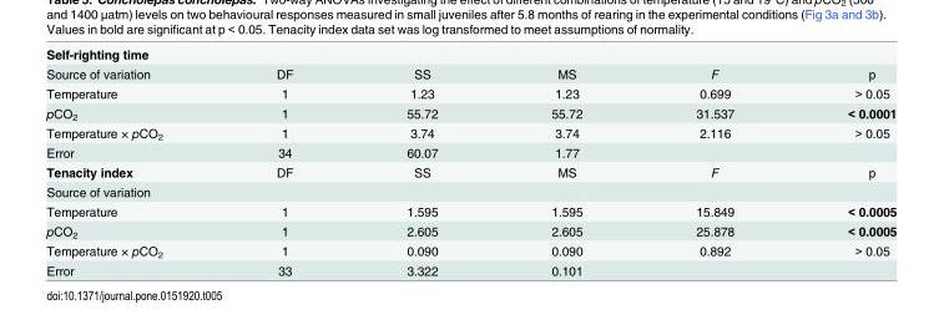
<table><tbody><tr><td colspan="6">Self-righting time</td></tr><tr><td>Source of variation</td><td>DF</td><td>SS</td><td>MS</td><td>F</td><td>p</td></tr><tr><td>Temperature</td><td>1</td><td>1.23</td><td>1.23</td><td>0.699</td><td>&gt; 0.05</td></tr><tr><td>pCO<sub>2</sub></td><td>1</td><td>55.72</td><td>55.72</td><td>31.537</td><td>&lt; 0.0001</td></tr><tr><td>Temperature × pCO<sub>2</sub></td><td>1</td><td>3.74</td><td>3.74</td><td>2.116</td><td>&gt; 0.05</td></tr><tr><td>Error</td><td>34</td><td>60.07</td><td>1.77</td><td></td><td></td></tr><tr><td>Tenacity index</td><td>DF</td><td>SS</td><td>MS</td><td>F</td><td>p</td></tr><tr><td colspan="6">Source of variation</td></tr><tr><td>Temperature</td><td>1</td><td>1.595</td><td>1.595</td><td>15.849</td><td>&lt; 0.0005</td></tr><tr><td>pCO<sub>2</sub></td><td>1</td><td>2.605</td><td>2.605</td><td>25.878</td><td>&lt; 0.0005</td></tr><tr><td>Temperature × pCO<sub>2</sub></td><td>1</td><td>0.090</td><td>0.090</td><td>0.892</td><td>&gt; 0.05</td></tr><tr><td>Error</td><td>33</td><td>3.322</td><td>0.101</td><td></td><td></td></tr></tbody></table>